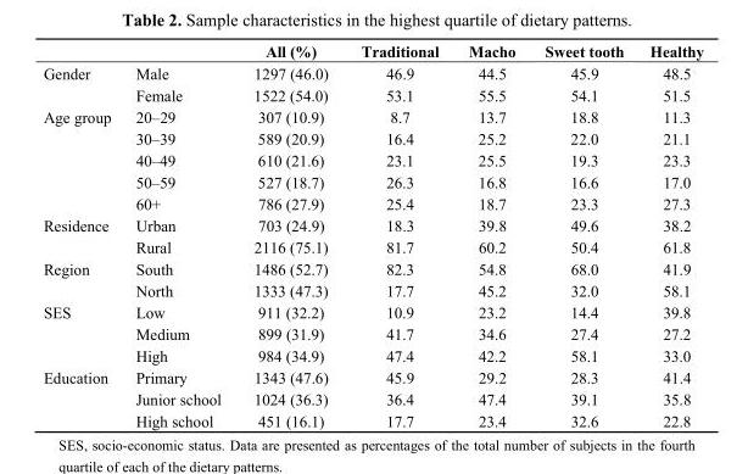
<table><thead><tr><td></td><td></td><td>All (%)</td><td>Traditional</td><td>Macho</td><td>Sweet tooth</td><td>Healthy</td></tr></thead><tbody><tr><td rowspan="2">Gender</td><td>Male</td><td>1297 (46.0)</td><td>46.9</td><td>44.5</td><td>45.9</td><td>48.5</td></tr><tr><td>Female</td><td>1522 (54.0)</td><td>53.1</td><td>55.5</td><td>54.1</td><td>51.5</td></tr><tr><td rowspan="5">Age group</td><td>20–29</td><td>307 (10.9)</td><td>8.7</td><td>13.7</td><td>18.8</td><td>11.3</td></tr><tr><td>30–39</td><td>589 (20.9)</td><td>16.4</td><td>25.2</td><td>22.0</td><td>21.1</td></tr><tr><td>40–49</td><td>610 (21.6)</td><td>23.1</td><td>25.5</td><td>19.3</td><td>23.3</td></tr><tr><td>50–59</td><td>527 (18.7)</td><td>26.3</td><td>16.8</td><td>16.6</td><td>17.0</td></tr><tr><td>60+</td><td>786 (27.9)</td><td>25.4</td><td>18.7</td><td>23.3</td><td>27.3</td></tr><tr><td rowspan="2">Residence</td><td>Urban</td><td>703 (24.9)</td><td>18.3</td><td>39.8</td><td>49.6</td><td>38.2</td></tr><tr><td>Rural</td><td>2116 (75.1)</td><td>81.7</td><td>60.2</td><td>50.4</td><td>61.8</td></tr><tr><td rowspan="2">Region</td><td>South</td><td>1486 (52.7)</td><td>82.3</td><td>54.8</td><td>68.0</td><td>41.9</td></tr><tr><td>North</td><td>1333 (47.3)</td><td>17.7</td><td>45.2</td><td>32.0</td><td>58.1</td></tr><tr><td rowspan="3">SES</td><td>Low</td><td>911 (32.2)</td><td>10.9</td><td>23.2</td><td>14.4</td><td>39.8</td></tr><tr><td>Medium</td><td>899 (31.9)</td><td>41.7</td><td>34.6</td><td>27.4</td><td>27.2</td></tr><tr><td>High</td><td>984 (34.9)</td><td>47.4</td><td>42.2</td><td>58.1</td><td>33.0</td></tr><tr><td rowspan="3">Education</td><td>Primary</td><td>1343 (47.6)</td><td>45.9</td><td>29.2</td><td>28.3</td><td>41.4</td></tr><tr><td>Junior school</td><td>1024 (36.3)</td><td>36.4</td><td>47.4</td><td>39.1</td><td>35.8</td></tr><tr><td>High school</td><td>451 (16.1)</td><td>17.7</td><td>23.4</td><td>32.6</td><td>22.8</td></tr></tbody></table>